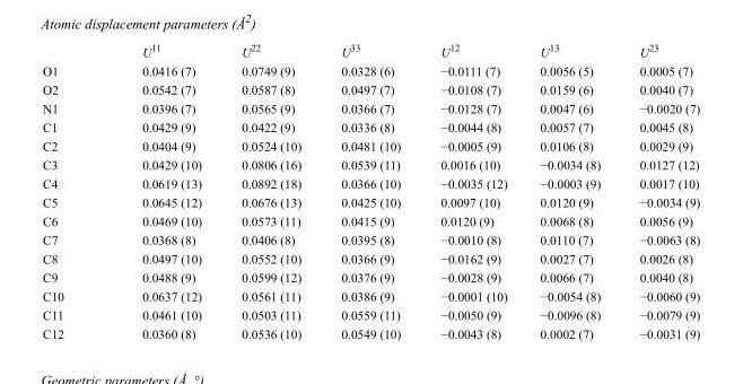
<table><thead><tr><td></td><td>U<sup>11</sup></td><td>U<sup>22</sup></td><td>U<sup>33</sup></td><td>U<sup>12</sup></td><td>U<sup>13</sup></td><td>U<sup>23</sup></td></tr></thead><tbody><tr><td>O1</td><td>0.0416 (7)</td><td>0.0749 (9)</td><td>0.0328 (6)</td><td>−0.0111 (7)</td><td>0.0056 (5)</td><td>0.0005 (7)</td></tr><tr><td>O2</td><td>0.0542 (7)</td><td>0.0587 (8)</td><td>0.0497 (7)</td><td>−0.0108 (7)</td><td>0.0159 (6)</td><td>0.0040 (7)</td></tr><tr><td>N1</td><td>0.0396 (7)</td><td>0.0565 (9)</td><td>0.0366 (7)</td><td>−0.0128 (7)</td><td>0.0047 (6)</td><td>−0.0020 (7)</td></tr><tr><td>C1</td><td>0.0429 (9)</td><td>0.0422 (9)</td><td>0.0336 (8)</td><td>−0.0044 (8)</td><td>0.0057 (7)</td><td>0.0045 (8)</td></tr><tr><td>C2</td><td>0.0404 (9)</td><td>0.0524 (10)</td><td>0.0481 (10)</td><td>−0.0005 (9)</td><td>0.0106 (8)</td><td>0.0029 (9)</td></tr><tr><td>C3</td><td>0.0429 (10)</td><td>0.0806 (16)</td><td>0.0539 (11)</td><td>0.0016 (10)</td><td>−0.0034 (8)</td><td>0.0127 (12)</td></tr><tr><td>C4</td><td>0.0619 (13)</td><td>0.0892 (18)</td><td>0.0366 (10)</td><td>−0.0035 (12)</td><td>−0.0003 (9)</td><td>0.0017 (10)</td></tr><tr><td>C5</td><td>0.0645 (12)</td><td>0.0676 (13)</td><td>0.0425 (10)</td><td>0.0097 (10)</td><td>0.0120 (9)</td><td>−0.0034 (9)</td></tr><tr><td>C6</td><td>0.0469 (10)</td><td>0.0573 (11)</td><td>0.0415 (9)</td><td>0.0120 (9)</td><td>0.0068 (8)</td><td>0.0056 (9)</td></tr><tr><td>C7</td><td>0.0368 (8)</td><td>0.0406 (8)</td><td>0.0395 (8)</td><td>−0.0010 (8)</td><td>0.0110 (7)</td><td>−0.0063 (8)</td></tr><tr><td>C8</td><td>0.0497 (10)</td><td>0.0552 (10)</td><td>0.0366 (9)</td><td>−0.0162 (9)</td><td>0.0027 (7)</td><td>0.0026 (8)</td></tr><tr><td>C9</td><td>0.0488 (9)</td><td>0.0599 (12)</td><td>0.0376 (9)</td><td>−0.0028 (9)</td><td>0.0066 (7)</td><td>0.0040 (8)</td></tr><tr><td>C10</td><td>0.0637 (12)</td><td>0.0561 (11)</td><td>0.0386 (9)</td><td>−0.0001 (10)</td><td>−0.0054 (8)</td><td>−0.0060 (9)</td></tr><tr><td>C11</td><td>0.0461 (10)</td><td>0.0503 (11)</td><td>0.0559 (11)</td><td>−0.0050 (9)</td><td>−0.0096 (8)</td><td>−0.0079 (9)</td></tr><tr><td>C12</td><td>0.0360 (8)</td><td>0.0536 (10)</td><td>0.0549 (10)</td><td>−0.0043 (8)</td><td>0.0002 (7)</td><td>−0.0031 (9)</td></tr></tbody></table>